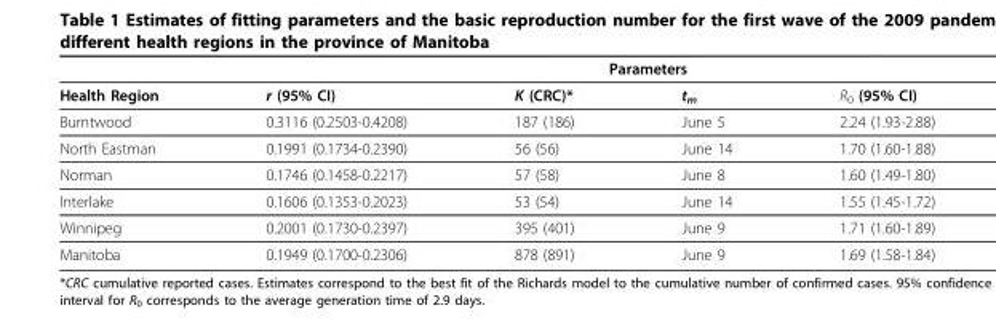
<table><thead><tr><td rowspan="2">Health Region</td><td colspan="4">Parameters</td></tr><tr><td>r (95% CI)</td><td>K (CRC)*</td><td>t<sub>m</sub></td><td>R<sub>0</sub> (95% CI)</td></tr></thead><tbody><tr><td>Burntwood</td><td>0.3116 (0.2503-0.4208)</td><td>187 (186)</td><td>June 5</td><td>2.24 (1.93-2.88)</td></tr><tr><td>North Eastman</td><td>0.1991 (0.1734-0.2390)</td><td>56 (56)</td><td>June 14</td><td>1.70 (1.60-1.88)</td></tr><tr><td>Norman</td><td>0.1746 (0.1458-0.2217)</td><td>57 (58)</td><td>June 8</td><td>1.60 (1.49-1.80)</td></tr><tr><td>Interlake</td><td>0.1606 (0.1353-0.2023)</td><td>53 (54)</td><td>June 14</td><td>1.55 (1.45-1.72)</td></tr><tr><td>Winnipeg</td><td>0.2001 (0.1730-0.2397)</td><td>395 (401)</td><td>June 9</td><td>1.71 (1.60-1.89)</td></tr><tr><td>Manitoba</td><td>0.1949 (0.1700-0.2306)</td><td>878 (891)</td><td>June 9</td><td>1.69 (1.58-1.84)</td></tr></tbody></table>